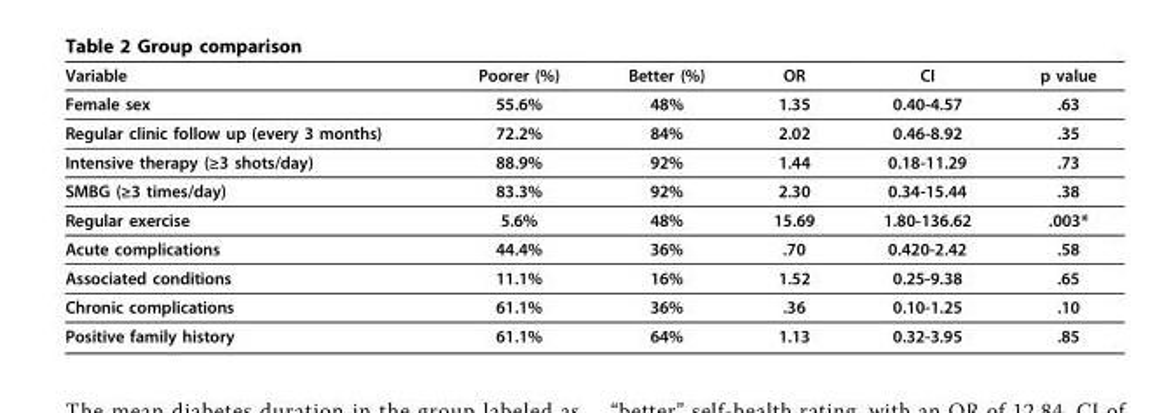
<table><thead><tr><td>Variable</td><td>Poorer (%)</td><td>Better (%)</td><td>OR</td><td>CI</td><td>p value</td></tr></thead><tbody><tr><td>Female sex</td><td>55.6%</td><td>48%</td><td>1.35</td><td>0.40-4.57</td><td>.63</td></tr><tr><td>Regular clinic follow up (every 3 months)</td><td>72.2%</td><td>84%</td><td>2.02</td><td>0.46-8.92</td><td>.35</td></tr><tr><td>Intensive therapy (≥3 shots/day)</td><td>88.9%</td><td>92%</td><td>1.44</td><td>0.18-11.29</td><td>.73</td></tr><tr><td>SMBG (≥3 times/day)</td><td>83.3%</td><td>92%</td><td>2.30</td><td>0.34-15.44</td><td>.38</td></tr><tr><td>Regular exercise</td><td>5.6%</td><td>48%</td><td>15.69</td><td>1.80-136.62</td><td>.003*</td></tr><tr><td>Acute complications</td><td>44.4%</td><td>36%</td><td>.70</td><td>0.420-2.42</td><td>.58</td></tr><tr><td>Associated conditions</td><td>11.1%</td><td>16%</td><td>1.52</td><td>0.25-9.38</td><td>.65</td></tr><tr><td>Chronic complications</td><td>61.1%</td><td>36%</td><td>.36</td><td>0.10-1.25</td><td>.10</td></tr><tr><td>Positive family history</td><td>61.1%</td><td>64%</td><td>1.13</td><td>0.32-3.95</td><td>.85</td></tr></tbody></table>